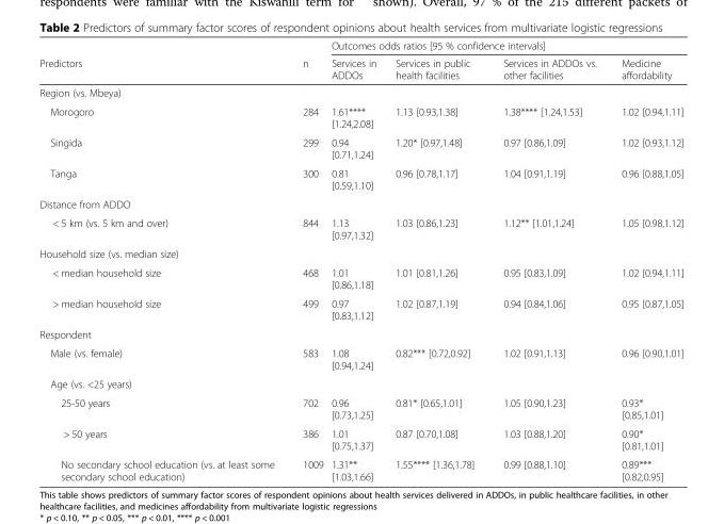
<table><thead><tr><td rowspan="2">Predictors</td><td rowspan="2">n</td><td colspan="4">Outcomes odds ratios [95 % confidence intervals]</td></tr><tr><td>Services in ADDOs</td><td>Services in public health facilities</td><td>Services in ADDOs vs. other facilities</td><td>Medicine affordability</td></tr></thead><tbody><tr><td colspan="6">Region (vs. Mbeya)</td></tr><tr><td>Morogoro</td><td>284</td><td>1.61**** [1.24,2.08]</td><td>1.13 [0.93,1.38]</td><td>1.38**** [1.24,1.53]</td><td>1.02 [0.94,1.11]</td></tr><tr><td>Singida</td><td>299</td><td>0.94 [0.71,1.24]</td><td>1.20* [0.97,1.48]</td><td>0.97 [0.86,1.09]</td><td>1.02 [0.93,1.12]</td></tr><tr><td>Tanga</td><td>300</td><td>0.81 [0.59,1.10]</td><td>0.96 [0.78,1.17]</td><td>1.04 [0.91,1.19]</td><td>0.96 [0.88,1.05]</td></tr><tr><td colspan="6">Distance from ADDO</td></tr><tr><td>&lt; 5 km (vs. 5 km and over)</td><td>844</td><td>1.13 [0.97,1.32]</td><td>1.03 [0.86,1.23]</td><td>1.12** [1.01,1.24]</td><td>1.05 [0.98,1.12]</td></tr><tr><td colspan="6">Household size (vs. median size)</td></tr><tr><td>&lt; median household size</td><td>468</td><td>1.01 [0.86,1.18]</td><td>1.01 [0.81,1.26]</td><td>0.95 [0.83,1.09]</td><td>1.02 [0.94,1.11]</td></tr><tr><td>&gt; median household size</td><td>499</td><td>0.97 [0.83,1.12]</td><td>1.02 [0.87,1.19]</td><td>0.94 [0.84,1.06]</td><td>0.95 [0.87,1.05]</td></tr><tr><td colspan="6">Respondent</td></tr><tr><td>Male (vs. female)</td><td>583</td><td>1.08 [0.94,1.24]</td><td>0.82*** [0.72,0.92]</td><td>1.02 [0.91,1.13]</td><td>0.96 [0.90,1.01]</td></tr><tr><td colspan="6">Age (vs. &lt;25 years)</td></tr><tr><td>25-50 years</td><td>702</td><td>0.96 [0.73,1.25]</td><td>0.81* [0.65,1.01]</td><td>1.05 [0.90,1.23]</td><td>0.93* [0.85,1.01]</td></tr><tr><td>&gt; 50 years</td><td>386</td><td>1.01 [0.75,1.37]</td><td>0.87 [0.70,1.08]</td><td>1.03 [0.88,1.20]</td><td>0.90* [0.81,1.01]</td></tr><tr><td>No secondary school education (vs. at least some secondary school education)</td><td>1009</td><td>1.31** [1.03,1.66]</td><td>1.55**** [1.36,1.78]</td><td>0.99 [0.88,1.10]</td><td>0.89*** [0.82,0.95]</td></tr></tbody></table>